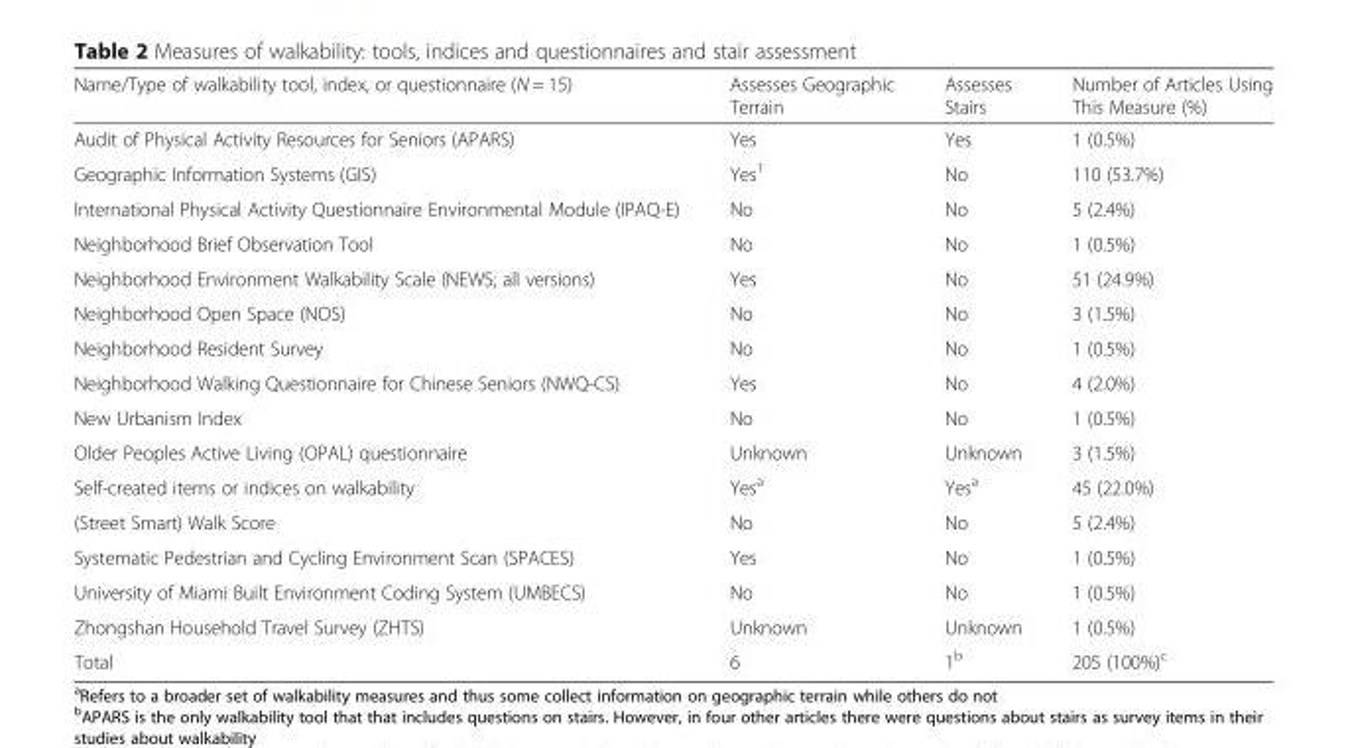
<table><thead><tr><td>Name/Type of walkability tool, index, or questionnaire (N = 15)</td><td>Assesses Geographic Terrain</td><td>Assesses Stairs</td><td>Number of Articles Using This Measure (%)</td></tr></thead><tbody><tr><td>Audit of Physical Activity Resources for Seniors (APARS)</td><td>Yes</td><td>Yes</td><td>1 (0.5%)</td></tr><tr><td>Geographic Information Systems (GIS)</td><td>Yes<sup>1</sup></td><td>No</td><td>110 (53.7%)</td></tr><tr><td>International Physical Activity Questionnaire Environmental Module (IPAQ-E)</td><td>No</td><td>No</td><td>5 (2.4%)</td></tr><tr><td>Neighborhood Brief Observation Tool</td><td>No</td><td>No</td><td>1 (0.5%)</td></tr><tr><td>Neighborhood Environment Walkability Scale (NEWS; all versions)</td><td>Yes</td><td>No</td><td>51 (24.9%)</td></tr><tr><td>Neighborhood Open Space (NOS)</td><td>No</td><td>No</td><td>3 (1.5%)</td></tr><tr><td>Neighborhood Resident Survey</td><td>No</td><td>No</td><td>1 (0.5%)</td></tr><tr><td>Neighborhood Walking Questionnaire for Chinese Seniors (NWQ-CS)</td><td>Yes</td><td>No</td><td>4 (2.0%)</td></tr><tr><td>New Urbanism Index</td><td>No</td><td>No</td><td>1 (0.5%)</td></tr><tr><td>Older Peoples Active Living (OPAL) questionnaire</td><td>Unknown</td><td>Unknown</td><td>3 (1.5%)</td></tr><tr><td>Self-created items or indices on walkability</td><td>Yes<sup>a</sup></td><td>Yes<sup>a</sup></td><td>45 (22.0%)</td></tr><tr><td>(Street Smart) Walk Score</td><td>No</td><td>No</td><td>5 (2.4%)</td></tr><tr><td>Systematic Pedestrian and Cycling Environment Scan (SPACES)</td><td>Yes</td><td>No</td><td>1 (0.5%)</td></tr><tr><td>University of Miami Built Environment Coding System (UMBECS)</td><td>No</td><td>No</td><td>1 (0.5%)</td></tr><tr><td>Zhongshan Household Travel Survey (ZHTS)</td><td>Unknown</td><td>Unknown</td><td>1 (0.5%)</td></tr><tr><td>Total</td><td>6</td><td>1<sup>b</sup></td><td>205 (100%)<sup>c</sup></td></tr></tbody></table>